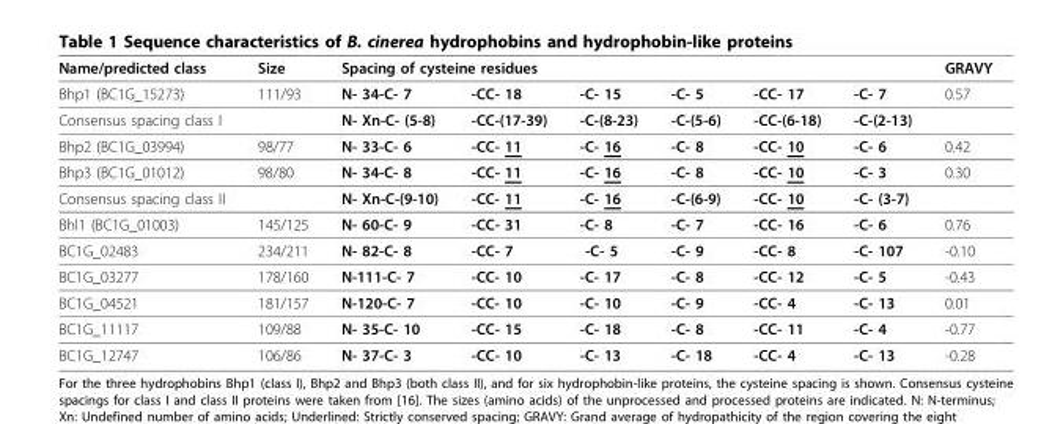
<table><thead><tr><td rowspan="2">Name/predicted class Bhp1 (BC1G_15273)</td><td rowspan="2">Size 111/93</td><td colspan="6">Spacing of cysteine residues</td><td rowspan="2">GRAVY 0.57</td></tr><tr><td>N- 34-C- 7</td><td>-CC- 18</td><td>-C- 15</td><td>-C- 5</td><td>-CC- 17</td><td>-C- 7</td></tr></thead><tbody><tr><td>Consensus spacing class I</td><td></td><td>N- Xn-C- (5-8)</td><td>-CC-(17-39)</td><td>-C-(8-23)</td><td>-C-(5-6)</td><td>-CC-(6-18)</td><td>-C-(2-13)</td><td></td></tr><tr><td>Bhp2 (BC1G_03994)</td><td>98/77</td><td>N- 33-C- 6</td><td>-CC- 11</td><td>-C- 16</td><td>-C- 8</td><td>-CC- 10</td><td>-C- 6</td><td>0.42</td></tr><tr><td>Bhp3 (BC1G_01012)</td><td>98/80</td><td>N- 34-C- 8</td><td>-CC- 11</td><td>-C- 16</td><td>-C- 8</td><td>-CC- 10</td><td>-C- 3</td><td>0.30</td></tr><tr><td>Consensus spacing class II</td><td></td><td>N- Xn-C-(9-10)</td><td>-CC- 11</td><td>-C- 16</td><td>-C-(6-9)</td><td>-CC- 10</td><td>-C- (3-7)</td><td></td></tr><tr><td>Bhl1 (BC1G_01003)</td><td>145/125</td><td>N- 60-C- 9</td><td>-CC- 31</td><td>-C- 8</td><td>-C- 7</td><td>-CC- 16</td><td>-C- 6</td><td>0.76</td></tr><tr><td>BC1G_02483</td><td>234/211</td><td>N- 82-C- 8</td><td>-CC- 7</td><td>-C- 5</td><td>-C- 9</td><td>-CC- 8</td><td>-C- 107</td><td>-0.10</td></tr><tr><td>BC1G_03277</td><td>178/160</td><td>N-111-C- 7</td><td>-CC- 10</td><td>-C- 17</td><td>-C- 8</td><td>-CC- 12</td><td>-C- 5</td><td>-0.43</td></tr><tr><td>BC1G_04521</td><td>181/157</td><td>N-120-C- 7</td><td>-CC- 10</td><td>-C- 10</td><td>-C- 9</td><td>-CC- 4</td><td>-C- 13</td><td>0.01</td></tr><tr><td>BC1G_11117</td><td>109/88</td><td>N- 35-C- 10</td><td>-CC- 15</td><td>-C- 18</td><td>-C- 8</td><td>-CC- 11</td><td>-C- 4</td><td>-0.77</td></tr><tr><td>BC1G_12747</td><td>106/86</td><td>N- 37-C- 3</td><td>-CC- 10</td><td>-C- 13</td><td>-C- 18</td><td>-CC- 4</td><td>-C- 13</td><td>-0.28</td></tr></tbody></table>